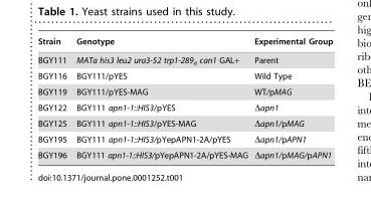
<table><thead><tr><td>Strain</td><td>Genotype</td><td>Experimental Group</td></tr></thead><tbody><tr><td>BGY111</td><td>MATa his3 leu2 ura3-52 trp1-289<sub>a</sub> can1 GAL+</td><td>Parent</td></tr><tr><td>BGY116</td><td>BGY111/pYES</td><td>Wild Type</td></tr><tr><td>BGY119</td><td>BGY111/pYES-MAG</td><td>WT/pMAG</td></tr><tr><td>BGY122</td><td>BGY111 apn1-1::HIS3/pYES</td><td>Δapn1</td></tr><tr><td>BGY125</td><td>BGY111 apn1-1::HIS3/pYES-MAG</td><td>Δapn1/pMAG</td></tr><tr><td>BGY195</td><td>BGY111 apn1-1::HIS3/pYepAPN1-2A/pYES</td><td>Δapn1/pAPN1</td></tr><tr><td>BGY196</td><td>BGY111 apn1-1::HIS3/pYepAPN1-2A/pYES-MAG</td><td>Δapn1/pMAG/pAPN1</td></tr></tbody></table>